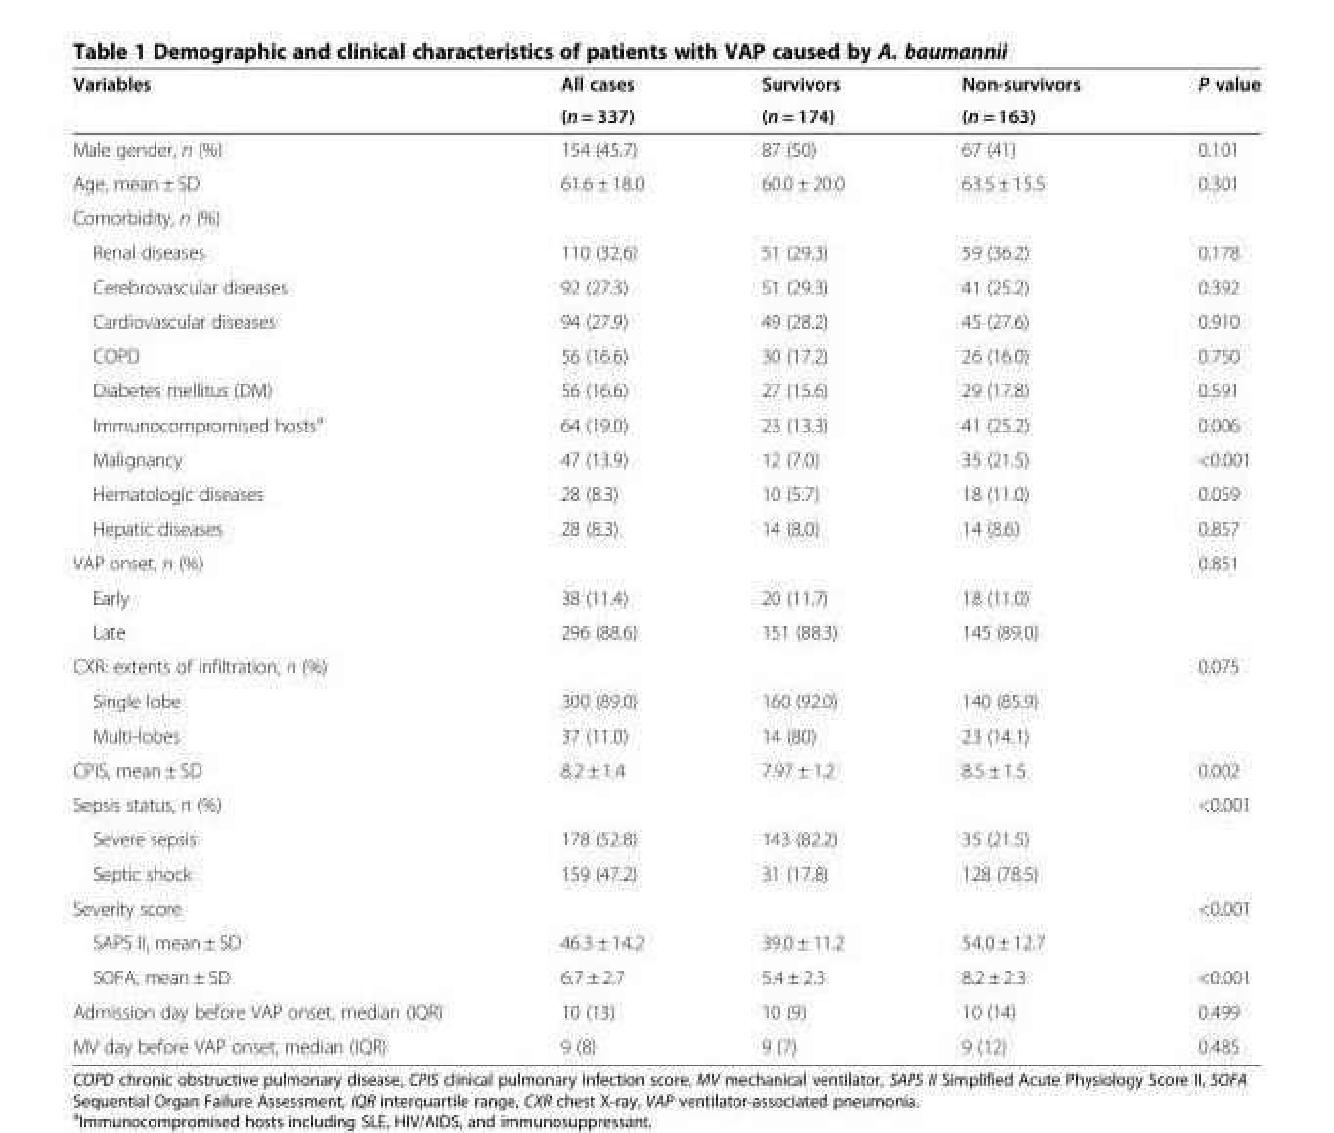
<table><thead><tr><td rowspan="2">Variables</td><td rowspan="2">All cases (n = 337)</td><td rowspan="2">Survivors (n = 174)</td><td rowspan="2">Non-survivors (n = 163)</td><td rowspan="2">P value</td></tr><tr></tr></thead><tbody><tr><td>Male gender, n (%)</td><td>154 (45.7)</td><td>87 (50)</td><td>67 (41)</td><td>0.101</td></tr><tr><td>Age, mean ± SD</td><td>61.6 ± 18.0</td><td>60.0 ± 20.0</td><td>63.5 ± 15.5</td><td>0.301</td></tr><tr><td colspan="5">Comorbidity, n (%)</td></tr><tr><td>Renal diseases</td><td>110 (32.6)</td><td>51 (29.3)</td><td>59 (36.2)</td><td>0.178</td></tr><tr><td>Cerebrovascular diseases</td><td>92 (27.3)</td><td>51 (29.3)</td><td>41 (25.2)</td><td>0.392</td></tr><tr><td>Cardiovascular diseases</td><td>94 (27.9)</td><td>49 (28.2)</td><td>45 (27.6)</td><td>0.910</td></tr><tr><td>COPD</td><td>56 (16.6)</td><td>30 (17.2)</td><td>26 (16.0)</td><td>0.750</td></tr><tr><td>Diabetes mellitus (DM)</td><td>56 (16.6)</td><td>27 (15.6)</td><td>29 (17.8)</td><td>0.591</td></tr><tr><td>Immunocompromised hosts<sup>a</sup></td><td>64 (19.0)</td><td>23 (13.3)</td><td>41 (25.2)</td><td>0.006</td></tr><tr><td>Malignancy</td><td>47 (13.9)</td><td>12 (7.0)</td><td>35 (21.5)</td><td>&lt;0.001</td></tr><tr><td>Hematologic diseases</td><td>28 (8.3)</td><td>10 (5.7)</td><td>18 (11.0)</td><td>0.059</td></tr><tr><td>Hepatic diseases</td><td>28 (8.3)</td><td>14 (8.0)</td><td>14 (8.6)</td><td>0.857</td></tr><tr><td colspan="4">VAP onset, n (%)</td><td rowspan="3">0.851</td></tr><tr><td>Early</td><td>38 (11.4)</td><td>20 (11.7)</td><td>18 (11.0)</td></tr><tr><td>Late</td><td>296 (88.6)</td><td>151 (88.3)</td><td>145 (89.0)</td></tr><tr><td colspan="4">CXR: extents of infiltration, n (%)</td><td rowspan="3">0.075</td></tr><tr><td>Single lobe</td><td>300 (89.0)</td><td>160 (92.0)</td><td>140 (85.9)</td></tr><tr><td>Multi-lobes</td><td>37 (11.0)</td><td>14 (80)</td><td>23 (14.1)</td></tr><tr><td>CPIS, mean ± SD</td><td>8.2 ± 1.4</td><td>7.97 ± 1.2</td><td>8.5 ± 1.5</td><td>0.002</td></tr><tr><td colspan="4">Sepsis status, n (%)</td><td rowspan="3">&lt;0.001</td></tr><tr><td>Severe sepsis</td><td>178 (52.8)</td><td>143 (82.2)</td><td>35 (21.5)</td></tr><tr><td>Septic shock</td><td>159 (47.2)</td><td>31 (17.8)</td><td>128 (78.5)</td></tr><tr><td colspan="4">Severity score</td><td rowspan="2">&lt;0.001</td></tr><tr><td>SAPS II, mean ± SD</td><td>46.3 ± 14.2</td><td>39.0 ± 11.2</td><td>54.0 ± 12.7</td></tr><tr><td>SOFA, mean ± SD</td><td>6.7 ± 2.7</td><td>5.4 ± 2.3</td><td>8.2 ± 2.3</td><td>&lt;0.001</td></tr><tr><td>Admission day before VAP onset, median (IQR)</td><td>10 (13)</td><td>10 (9)</td><td>10 (14)</td><td>0.499</td></tr><tr><td>MV day before VAP onset, median (IQR)</td><td>9 (8)</td><td>9 (7)</td><td>9 (12)</td><td>0.485</td></tr></tbody></table>